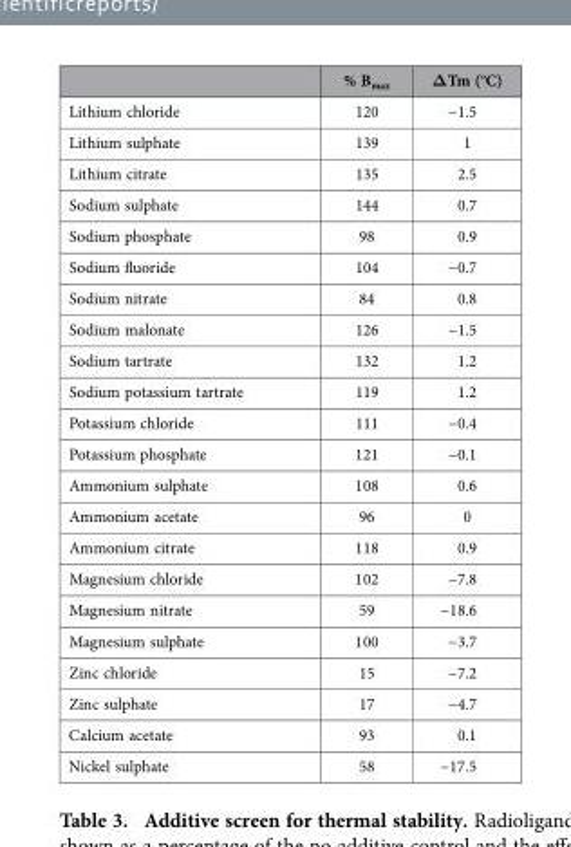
<table><thead><tr><td></td><td>% B<sub>max</sub></td><td>ΔTm (°C)</td></tr></thead><tbody><tr><td>Lithium chloride</td><td>120</td><td>−1.5</td></tr><tr><td>Lithium sulphate</td><td>139</td><td>1</td></tr><tr><td>Lithium citrate</td><td>135</td><td>2.5</td></tr><tr><td>Sodium sulphate</td><td>144</td><td>0.7</td></tr><tr><td>Sodium phosphate</td><td>98</td><td>0.9</td></tr><tr><td>Sodium fluoride</td><td>104</td><td>−0.7</td></tr><tr><td>Sodium nitrate</td><td>84</td><td>0.8</td></tr><tr><td>Sodium malonate</td><td>126</td><td>−1.5</td></tr><tr><td>Sodium tartrate</td><td>132</td><td>1.2</td></tr><tr><td>Sodium potassium tartrate</td><td>119</td><td>1.2</td></tr><tr><td>Potassium chloride</td><td>111</td><td>−0.4</td></tr><tr><td>Potassium phosphate</td><td>121</td><td>−0.1</td></tr><tr><td>Ammonium sulphate</td><td>108</td><td>0.6</td></tr><tr><td>Ammonium acetate</td><td>96</td><td>0</td></tr><tr><td>Ammonium citrate</td><td>118</td><td>0.9</td></tr><tr><td>Magnesium chloride</td><td>102</td><td>−7.8</td></tr><tr><td>Magnesium nitrate</td><td>59</td><td>−18.6</td></tr><tr><td>Magnesium sulphate</td><td>100</td><td>−3.7</td></tr><tr><td>Zinc chloride</td><td>15</td><td>−7.2</td></tr><tr><td>Zinc sulphate</td><td>17</td><td>−4.7</td></tr><tr><td>Calcium acetate</td><td>93</td><td>0.1</td></tr><tr><td>Nickel sulphate</td><td>58</td><td>−17.5</td></tr></tbody></table>